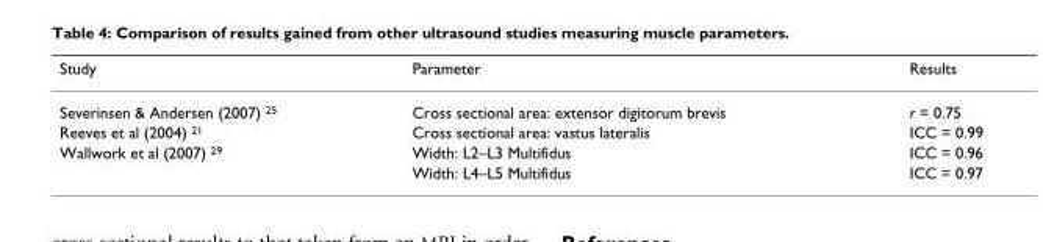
<table><thead><tr><td>Study</td><td>Parameter</td><td>Results</td></tr></thead><tbody><tr><td>Severinsen &amp; Andersen (2007) <sup>25</sup></td><td>Cross sectional area: extensor digitorum brevis</td><td>r = 0.75</td></tr><tr><td>Reeves et al (2004) <sup>21</sup></td><td>Cross sectional area: vastus lateralis</td><td>ICC = 0.99</td></tr><tr><td rowspan="2">Wallwork et al (2007) <sup>29</sup></td><td>Width: L2–L3 Multifidus</td><td>ICC = 0.96</td></tr><tr><td>Width: L4–L5 Multifidus</td><td>ICC = 0.97</td></tr></tbody></table>